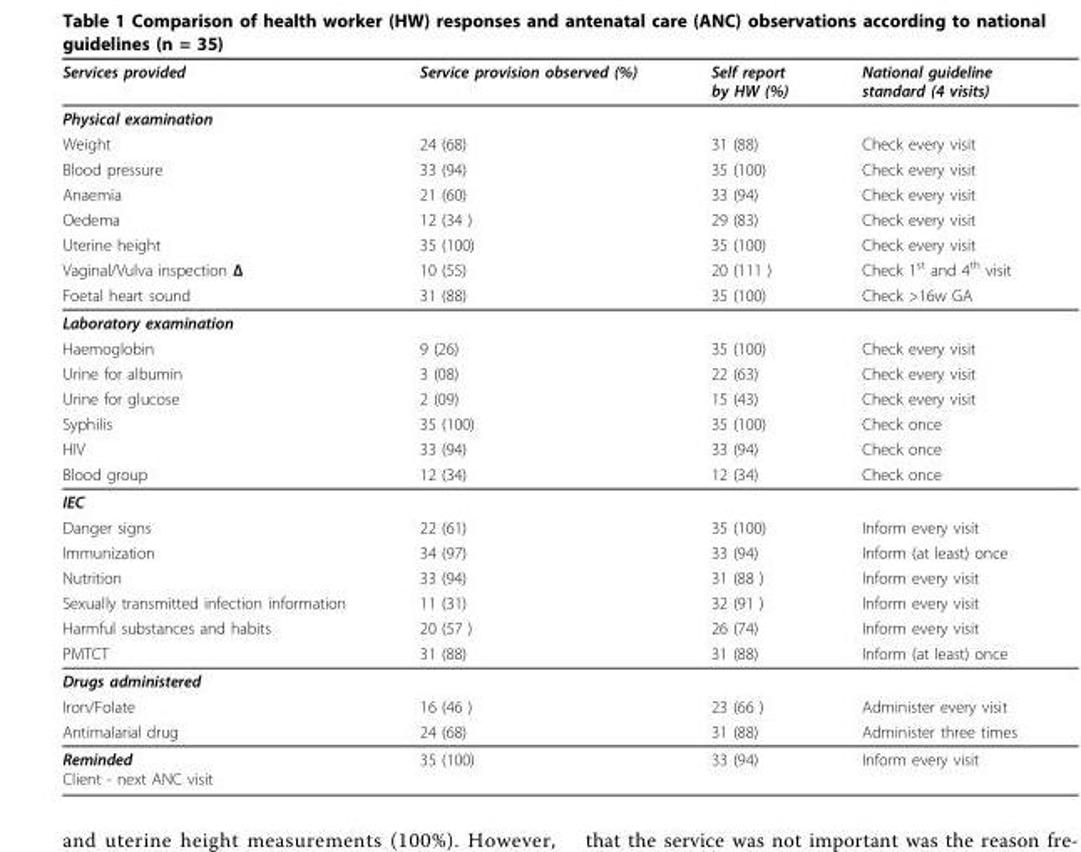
<table><thead><tr><td>Services provided</td><td>Service provision observed (%)</td><td>Self report by HW (%)</td><td>National guideline standard (4 visits)</td></tr></thead><tbody><tr><td colspan="4">Physical examination</td></tr><tr><td>Weight</td><td>24 (68)</td><td>31 (88)</td><td>Check every visit</td></tr><tr><td>Blood pressure</td><td>33 (94)</td><td>35 (100)</td><td>Check every visit</td></tr><tr><td>Anaemia</td><td>21 (60)</td><td>33 (94)</td><td>Check every visit</td></tr><tr><td>Oedema</td><td>12 (34 )</td><td>29 (83)</td><td>Check every visit</td></tr><tr><td>Uterine height</td><td>35 (100)</td><td>35 (100)</td><td>Check every visit</td></tr><tr><td>Vaginal/Vulva inspection Δ</td><td>10 (55)</td><td>20 (111 )</td><td>Check 1<sup>st</sup> and 4<sup>th</sup> visit</td></tr><tr><td>Foetal heart sound</td><td>31 (88)</td><td>35 (100)</td><td>Check &gt;16w GA</td></tr><tr><td colspan="4">Laboratory examination</td></tr><tr><td>Haemoglobin</td><td>9 (26)</td><td>35 (100)</td><td>Check every visit</td></tr><tr><td>Urine for albumin</td><td>3 (08)</td><td>22 (63)</td><td>Check every visit</td></tr><tr><td>Urine for glucose</td><td>2 (09)</td><td>15 (43)</td><td>Check every visit</td></tr><tr><td>Syphilis</td><td>35 (100)</td><td>35 (100)</td><td>Check once</td></tr><tr><td>HIV</td><td>33 (94)</td><td>33 (94)</td><td>Check once</td></tr><tr><td>Blood group</td><td>12 (34)</td><td>12 (34)</td><td>Check once</td></tr><tr><td colspan="4">IEC</td></tr><tr><td>Danger signs</td><td>22 (61)</td><td>35 (100)</td><td>Inform every visit</td></tr><tr><td>Immunization</td><td>34 (97)</td><td>33 (94)</td><td>Inform (at least) once</td></tr><tr><td>Nutrition</td><td>33 (94)</td><td>31 (88 )</td><td>Inform every visit</td></tr><tr><td>Sexually transmitted infection information</td><td>11 (31)</td><td>32 (91 )</td><td>Inform every visit</td></tr><tr><td>Harmful substances and habits</td><td>20 (57 )</td><td>26 (74)</td><td>Inform every visit</td></tr><tr><td>PMTCT</td><td>31 (88)</td><td>31 (88)</td><td>Inform (at least) once</td></tr><tr><td colspan="4">Drugs administered</td></tr><tr><td>Iron/Folate</td><td>16 (46 )</td><td>23 (66 )</td><td>Administer every visit</td></tr><tr><td>Antimalarial drug</td><td>24 (68)</td><td>31 (88)</td><td>Administer three times</td></tr><tr><td>Reminded Client - next ANC visit</td><td>35 (100)</td><td>33 (94)</td><td>Inform every visit</td></tr></tbody></table>